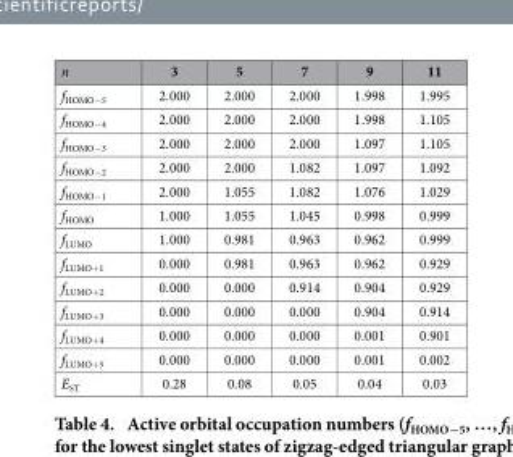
<table><thead><tr><td>n</td><td>3</td><td>5</td><td>7</td><td>9</td><td>11</td></tr></thead><tbody><tr><td>f<sub>HOMO−5</sub></td><td>2.000</td><td>2.000</td><td>2.000</td><td>1.998</td><td>1.995</td></tr><tr><td>f<sub>HOMO−4</sub></td><td>2.000</td><td>2.000</td><td>2.000</td><td>1.998</td><td>1.105</td></tr><tr><td>f<sub>HOMO−3</sub></td><td>2.000</td><td>2.000</td><td>2.000</td><td>1.097</td><td>1.105</td></tr><tr><td>f<sub>HOMO−2</sub></td><td>2.000</td><td>2.000</td><td>1.082</td><td>1.097</td><td>1.092</td></tr><tr><td>f<sub>HOMO−1</sub></td><td>2.000</td><td>1.055</td><td>1.082</td><td>1.076</td><td>1.029</td></tr><tr><td>f<sub>HOMO</sub></td><td>1.000</td><td>1.055</td><td>1.045</td><td>0.998</td><td>0.999</td></tr><tr><td>f<sub>LUMO</sub></td><td>1.000</td><td>0.981</td><td>0.963</td><td>0.962</td><td>0.999</td></tr><tr><td>f<sub>LUMO+1</sub></td><td>0.000</td><td>0.981</td><td>0.963</td><td>0.962</td><td>0.929</td></tr><tr><td>f<sub>LUMO+2</sub></td><td>0.000</td><td>0.000</td><td>0.914</td><td>0.904</td><td>0.929</td></tr><tr><td>f<sub>LUMO+3</sub></td><td>0.000</td><td>0.000</td><td>0.000</td><td>0.904</td><td>0.914</td></tr><tr><td>f<sub>LUMO+4</sub></td><td>0.000</td><td>0.000</td><td>0.000</td><td>0.001</td><td>0.901</td></tr><tr><td>f<sub>LUMO+5</sub></td><td>0.000</td><td>0.000</td><td>0.000</td><td>0.001</td><td>0.002</td></tr><tr><td>E<sub>ST</sub></td><td>0.28</td><td>0.08</td><td>0.05</td><td>0.04</td><td>0.03</td></tr></tbody></table>